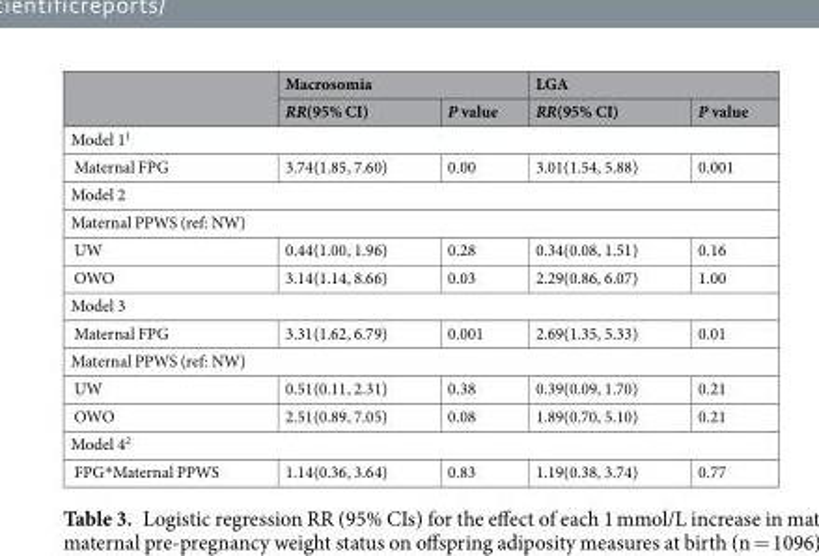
<table><thead><tr><td rowspan="2"></td><td colspan="2">Macrosomia</td><td colspan="2">LGA</td></tr><tr><td>RR(95% CI)</td><td>P value</td><td>RR(95% CI)</td><td>P value</td></tr></thead><tbody><tr><td colspan="5">Model 1<sup>1</sup></td></tr><tr><td>Maternal FPG</td><td>3.74(1.85, 7.60)</td><td>0.00</td><td>3.01(1.54, 5.88)</td><td>0.001</td></tr><tr><td colspan="5">Model 2</td></tr><tr><td colspan="5">Maternal PPWS (ref: NW)</td></tr><tr><td>UW</td><td>0.44(1.00, 1.96)</td><td>0.28</td><td>0.34(0.08, 1.51)</td><td>0.16</td></tr><tr><td>OWO</td><td>3.14(1.14, 8.66)</td><td>0.03</td><td>2.29(0.86, 6.07)</td><td>1.00</td></tr><tr><td colspan="5">Model 3</td></tr><tr><td>Maternal FPG</td><td>3.31(1.62, 6.79)</td><td>0.001</td><td>2.69(1.35, 5.33)</td><td>0.01</td></tr><tr><td colspan="5">Maternal PPWS (ref: NW)</td></tr><tr><td>UW</td><td>0.51(0.11, 2.31)</td><td>0.38</td><td>0.39(0.09, 1.70)</td><td>0.21</td></tr><tr><td>OWO</td><td>2.51(0.89, 7.05)</td><td>0.08</td><td>1.89(0.70, 5.10)</td><td>0.21</td></tr><tr><td colspan="5">Model 4<sup>2</sup></td></tr><tr><td>FPG*Maternal PPWS</td><td>1.14(0.36, 3.64)</td><td>0.83</td><td>1.19(0.38, 3.74)</td><td>0.77</td></tr></tbody></table>